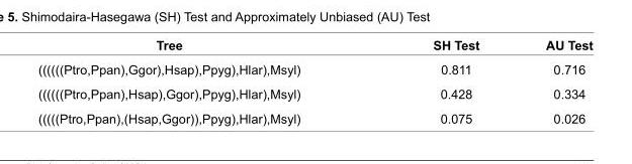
<table><thead><tr><td>Tree</td><td>SH Test</td><td>AU Test</td></tr></thead><tbody><tr><td>((((((Ptro,Ppan),Ggor),Hsap),Ppyg),Hlar),Msyl)</td><td>0.811</td><td>0.716</td></tr><tr><td>((((((Ptro,Ppan),Hsap),Ggor),Ppyg),Hlar),Msyl)</td><td>0.428</td><td>0.334</td></tr><tr><td>(((((Ptro,Ppan),(Hsap,Ggor)),Ppyg),Hlar),Msyl)</td><td>0.075</td><td>0.026</td></tr></tbody></table>